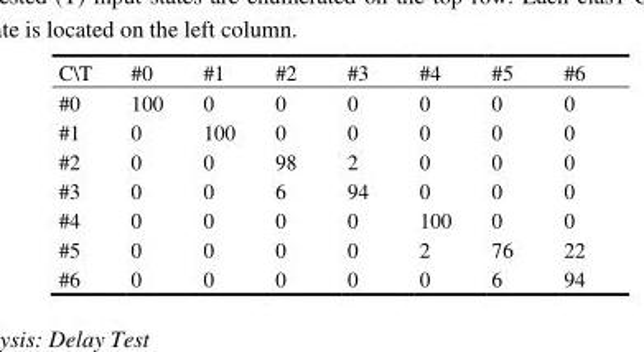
<table><thead><tr><td>C\T</td><td>#0</td><td>#1</td><td>#2</td><td>#3</td><td>#4</td><td>#5</td><td>#6</td></tr></thead><tbody><tr><td>#0</td><td>100</td><td>0</td><td>0</td><td>0</td><td>0</td><td>0</td><td>0</td></tr><tr><td>#1</td><td>0</td><td>100</td><td>0</td><td>0</td><td>0</td><td>0</td><td>0</td></tr><tr><td>#2</td><td>0</td><td>0</td><td>98</td><td>2</td><td>0</td><td>0</td><td>0</td></tr><tr><td>#3</td><td>0</td><td>0</td><td>6</td><td>94</td><td>0</td><td>0</td><td>0</td></tr><tr><td>#4</td><td>0</td><td>0</td><td>0</td><td>0</td><td>100</td><td>0</td><td>0</td></tr><tr><td>#5</td><td>0</td><td>0</td><td>0</td><td>0</td><td>2</td><td>76</td><td>22</td></tr><tr><td>#6</td><td>0</td><td>0</td><td>0</td><td>0</td><td>0</td><td>6</td><td>94</td></tr></tbody></table>